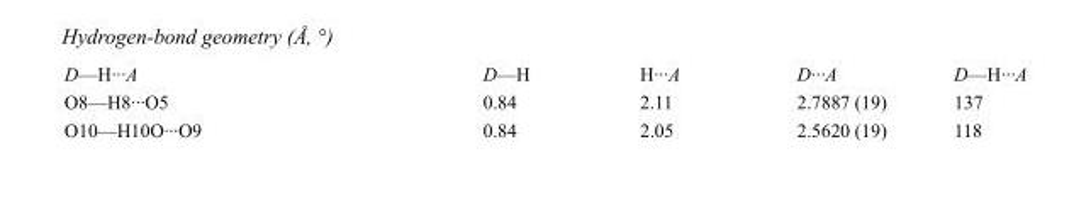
<table><tbody><tr><td>D—H···A</td><td>D—H</td><td>H···A</td><td>D···A</td><td>D—H···A</td></tr><tr><td>O8—H8···O5</td><td>0.84</td><td>2.11</td><td>2.7887 (19)</td><td>137</td></tr><tr><td>O10—H10O···O9</td><td>0.84</td><td>2.05</td><td>2.5620 (19)</td><td>118</td></tr></tbody></table>